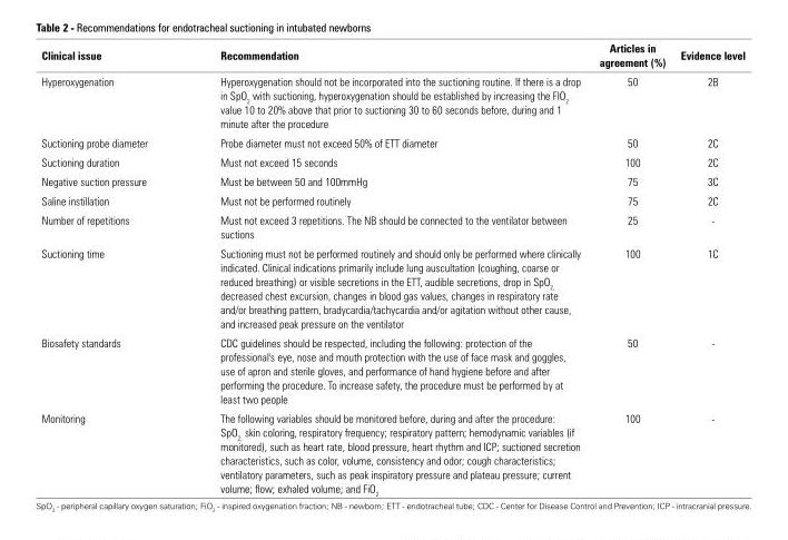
<table><thead><tr><td>Clinical issue</td><td>Recommendation</td><td>Articles in agreement (%)</td><td>Evidence level</td></tr></thead><tbody><tr><td>Hyperoxygenation</td><td>Hyperoxygenation should not be incorporated into the suctioning routine. If there is a drop in SpO<sub>2</sub> with suctioning, hyperoxygenation should be established by increasing the FIO<sub>2</sub> value 10 to 20% above that prior to suctioning 30 to 60 seconds before, during and 1 minute after the procedure</td><td>50</td><td>2B</td></tr><tr><td>Suctioning probe diameter</td><td>Probe diameter must not exceed 50% of ETT diameter</td><td>50</td><td>2C</td></tr><tr><td>Suctioning duration</td><td>Must not exceed 15 seconds</td><td>100</td><td>2C</td></tr><tr><td>Negative suction pressure</td><td>Must be between 50 and 100mmHg</td><td>75</td><td>3C</td></tr><tr><td>Saline instillation</td><td>Must not be performed routinely</td><td>75</td><td>2C</td></tr><tr><td>Number of repetitions</td><td>Must not exceed 3 repetitions. The NB should be connected to the ventilator between suctions</td><td>25</td><td>-</td></tr><tr><td>Suctioning time</td><td>Suctioning must not be performed routinely and should only be performed where clinically indicated. Clinical indications primarily include lung auscultation (coughing, coarse or reduced breathing) or visible secretions in the ETT, audible secretions, drop in SpO2, decreased chest excursion, changes in blood gas values, changes in respiratory rate and/or breathing pattern, bradycardia/tachycardia and/or agitation without other cause, and increased peak pressure on the ventilator</td><td>100</td><td>1C</td></tr><tr><td>Biosafety standards</td><td>CDC guidelines should be respected, including the following: protection of the professional&#x27;s eye, nose and mouth protection with the use of face mask and goggles, use of apron and sterile gloves, and performance of hand hygiene before and after performing the procedure. To increase safety, the procedure must be performed by at least two people</td><td>50</td><td>-</td></tr><tr><td>Monitoring</td><td>The following variables should be monitored before, during and after the procedure: SpO2; skin coloring, respiratory frequency; respiratory pattern; hemodynamic variables (if monitored), such as heart rate, blood pressure, heart rhythm and ICP; suctioned secretion characteristics, such as color, volume, consistency and odor; cough characteristics; ventilatory parameters, such as peak inspiratory pressure and plateau pressure; current volume; flow; exhaled volume; and FiO2</td><td>100</td><td>-</td></tr></tbody></table>